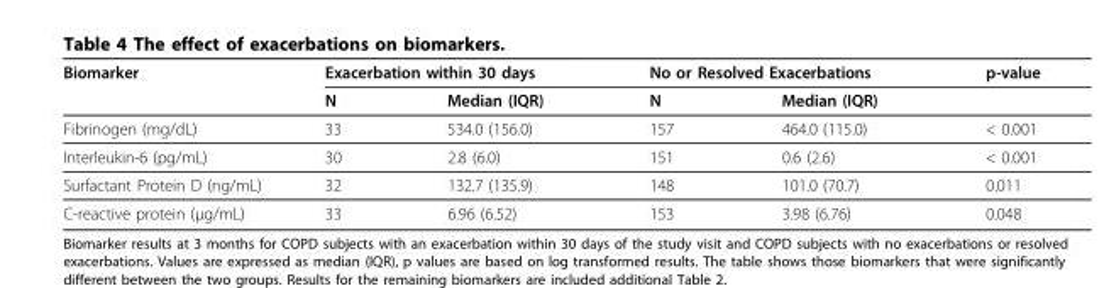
<table><thead><tr><td rowspan="2">Biomarker</td><td colspan="2">Exacerbation within 30 days</td><td colspan="2">No or Resolved Exacerbations</td><td rowspan="2">p-value</td></tr><tr><td>N</td><td>Median (IQR)</td><td>N</td><td>Median (IQR)</td></tr></thead><tbody><tr><td>Fibrinogen (mg/dL)</td><td>33</td><td>534.0 (156.0)</td><td>157</td><td>464.0 (115.0)</td><td>&lt; 0.001</td></tr><tr><td>Interleukin-6 (pg/mL)</td><td>30</td><td>2.8 (6.0)</td><td>151</td><td>0.6 (2.6)</td><td>&lt; 0.001</td></tr><tr><td>Surfactant Protein D (ng/mL)</td><td>32</td><td>132.7 (135.9)</td><td>148</td><td>101.0 (70.7)</td><td>0.011</td></tr><tr><td>C-reactive protein (μg/mL)</td><td>33</td><td>6.96 (6.52)</td><td>153</td><td>3.98 (6.76)</td><td>0.048</td></tr></tbody></table>